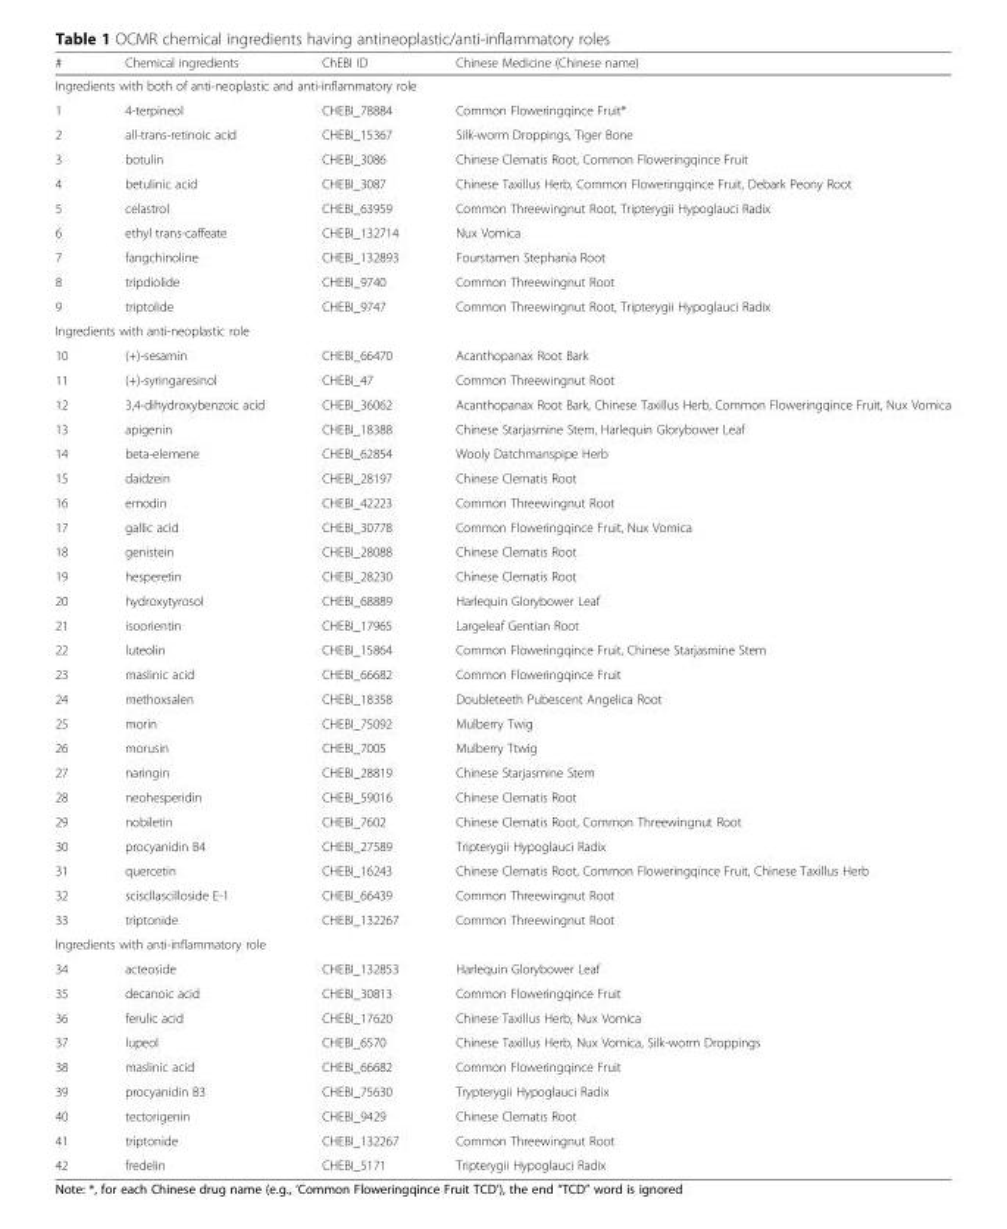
<table><thead><tr><td>#</td><td>Chemical ingredients</td><td>ChEBI ID</td><td>Chinese Medicine (Chinese name)</td></tr></thead><tbody><tr><td colspan="4">Ingredients with both of anti-neoplastic and anti-inflammatory role</td></tr><tr><td>1</td><td>4-terpineol</td><td>CHEBI_78884</td><td>Common Floweringqince Fruit*</td></tr><tr><td>2</td><td>all-trans-retinoic acid</td><td>CHEBI_15367</td><td>Silk-worm Droppings, Tiger Bone</td></tr><tr><td>3</td><td>botulin</td><td>CHEBI_3086</td><td>Chinese Clematis Root, Common Floweringqince Fruit</td></tr><tr><td>4</td><td>betulinic acid</td><td>CHEBI_3087</td><td>Chinese Taxillus Herb, Common Floweringqince Fruit, Debark Peony Root</td></tr><tr><td>5</td><td>celastrol</td><td>CHEBI_63959</td><td>Common Threewingnut Root, Tripterygii Hypoglauci Radix</td></tr><tr><td>6</td><td>ethyl trans-caffeate</td><td>CHEBI_132714</td><td>Nux Vomica</td></tr><tr><td>7</td><td>fangchinoline</td><td>CHEBI_132893</td><td>Fourstamen Stephania Root</td></tr><tr><td>8</td><td>tripdiolide</td><td>CHEBI_9740</td><td>Common Threewingnut Root</td></tr><tr><td>9</td><td>triptolide</td><td>CHEBI_9747</td><td>Common Threewingnut Root, Tripterygii Hypoglauci Radix</td></tr><tr><td colspan="4">Ingredients with anti-neoplastic role</td></tr><tr><td>10</td><td>(+)-sesamin</td><td>CHEBI_66470</td><td>Acanthopanax Root Bark</td></tr><tr><td>11</td><td>(+)-syringaresinol</td><td>CHEBI_47</td><td>Common Threewingnut Root</td></tr><tr><td>12</td><td>3,4-dihydroxybenzoic acid</td><td>CHEBI_36062</td><td>Acanthopanax Root Bark, Chinese Taxillus Herb, Common Floweringqince Fruit, Nux Vomica</td></tr><tr><td>13</td><td>apigenin</td><td>CHEBI_18388</td><td>Chinese Starjasmine Stem, Harlequin Glorybower Leaf</td></tr><tr><td>14</td><td>beta-elemene</td><td>CHEBI_62854</td><td>Wooly Datchmanspipe Herb</td></tr><tr><td>15</td><td>daidzein</td><td>CHEBI_28197</td><td>Chinese Clematis Root</td></tr><tr><td>16</td><td>emodin</td><td>CHEBI_42223</td><td>Common Threewingnut Root</td></tr><tr><td>17</td><td>gallic acid</td><td>CHEBI_30778</td><td>Common Floweringqince Fruit, Nux Vomica</td></tr><tr><td>18</td><td>genistein</td><td>CHEBI_28088</td><td>Chinese Clematis Root</td></tr><tr><td>19</td><td>hesperetin</td><td>CHEBI_28230</td><td>Chinese Clematis Root</td></tr><tr><td>20</td><td>hydroxytyrosol</td><td>CHEBI_68889</td><td>Harlequin Glorybower Leaf</td></tr><tr><td>21</td><td>isoorientin</td><td>CHEBI_17965</td><td>Largeleaf Gentian Root</td></tr><tr><td>22</td><td>luteolin</td><td>CHEBI_15864</td><td>Common Floweringqince Fruit, Chinese Starjasmine Stem</td></tr><tr><td>23</td><td>maslinic acid</td><td>CHEBI_66682</td><td>Common Floweringqince Fruit</td></tr><tr><td>24</td><td>methoxsalen</td><td>CHEBI_18358</td><td>Doubleteeth Pubescent Angelica Root</td></tr><tr><td>25</td><td>morin</td><td>CHEBI_75092</td><td>Mulberry Twig</td></tr><tr><td>26</td><td>morusin</td><td>CHEBI_7005</td><td>Mulberry Ttwig</td></tr><tr><td>27</td><td>naringin</td><td>CHEBI_28819</td><td>Chinese Starjasmine Stem</td></tr><tr><td>28</td><td>neohesperidin</td><td>CHEBI_59016</td><td>Chinese Clematis Root</td></tr><tr><td>29</td><td>nobiletin</td><td>CHEBI_7602</td><td>Chinese Clematis Root, Common Threewingnut Root</td></tr><tr><td>30</td><td>procyanidin B4</td><td>CHEBI_27589</td><td>Tripterygii Hypoglauci Radix</td></tr><tr><td>31</td><td>quercetin</td><td>CHEBI_16243</td><td>Chinese Clematis Root, Common Floweringqince Fruit, Chinese Taxillus Herb</td></tr><tr><td>32</td><td>sciscllascilloside E-1</td><td>CHEBI_66439</td><td>Common Threewingnut Root</td></tr><tr><td>33</td><td>triptonide</td><td>CHEBI_132267</td><td>Common Threewingnut Root</td></tr><tr><td colspan="4">Ingredients with anti-inflammatory role</td></tr><tr><td>34</td><td>acteoside</td><td>CHEBI_132853</td><td>Harlequin Glorybower Leaf</td></tr><tr><td>35</td><td>decanoic acid</td><td>CHEBI_30813</td><td>Common Floweringqince Fruit</td></tr><tr><td>36</td><td>ferulic acid</td><td>CHEBI_17620</td><td>Chinese Taxillus Herb, Nux Vomica</td></tr><tr><td>37</td><td>lupeol</td><td>CHEBI_6570</td><td>Chinese Taxillus Herb, Nux Vomica, Silk-worm Droppings</td></tr><tr><td>38</td><td>maslinic acid</td><td>CHEBI_66682</td><td>Common Floweringqince Fruit</td></tr><tr><td>39</td><td>procyanidin B3</td><td>CHEBI_75630</td><td>Trypterygii Hypoglauci Radix</td></tr><tr><td>40</td><td>tectorigenin</td><td>CHEBI_9429</td><td>Chinese Clematis Root</td></tr><tr><td>41</td><td>triptonide</td><td>CHEBI_132267</td><td>Common Threewingnut Root</td></tr><tr><td>42</td><td>fredelin</td><td>CHEBI_5171</td><td>Tripterygii Hypoglauci Radix</td></tr></tbody></table>